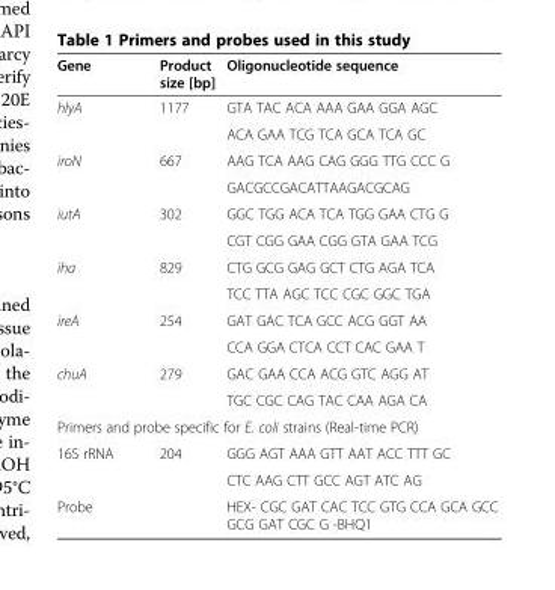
<table><thead><tr><td>Gene</td><td>Product size [bp]</td><td>Oligonucleotide sequence</td></tr></thead><tbody><tr><td rowspan="2">hlyA</td><td>1177</td><td>GTA TAC ACA AAA GAA GGA AGC</td></tr><tr><td></td><td>ACA GAA TCG TCA GCA TCA GC</td></tr><tr><td rowspan="2">iroN</td><td>667</td><td>AAG TCA AAG CAG GGG TTG CCC G</td></tr><tr><td></td><td>GACGCCGACATTAAGACGCAG</td></tr><tr><td rowspan="2">iutA</td><td>302</td><td>GGC TGG ACA TCA TGG GAA CTG G</td></tr><tr><td></td><td>CGT CGG GAA CGG GTA GAA TCG</td></tr><tr><td rowspan="2">iha</td><td>829</td><td>CTG GCG GAG GCT CTG AGA TCA</td></tr><tr><td></td><td>TCC TTA AGC TCC CGC GGC TGA</td></tr><tr><td rowspan="2">ireA</td><td>254</td><td>GAT GAC TCA GCC ACG GGT AA</td></tr><tr><td></td><td>CCA GGA CTCA CCT CAC GAA T</td></tr><tr><td rowspan="2">chuA</td><td>279</td><td>GAC GAA CCA ACG GTC AGG AT</td></tr><tr><td></td><td>TGC CGC CAG TAC CAA AGA CA</td></tr><tr><td colspan="3">Primers and probe specific for E. coli strains (Real-time PCR)</td></tr><tr><td rowspan="2">16S rRNA</td><td>204</td><td>GGG AGT AAA GTT AAT ACC TTT GC</td></tr><tr><td></td><td>CTC AAG CTT GCC AGT ATC AG</td></tr><tr><td>Probe</td><td></td><td>HEX- CGC GAT CAC TCC GTG CCA GCA GCC GCG GAT CGC G -BHQ1</td></tr></tbody></table>